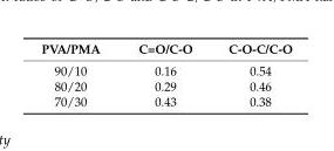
<table><thead><tr><td>PVA/PMA</td><td>C=O/C-O</td><td>C-O-C/C-O</td></tr></thead><tbody><tr><td>90/10</td><td>0.16</td><td>0.54</td></tr><tr><td>80/20</td><td>0.29</td><td>0.46</td></tr><tr><td>70/30</td><td>0.43</td><td>0.38</td></tr></tbody></table>